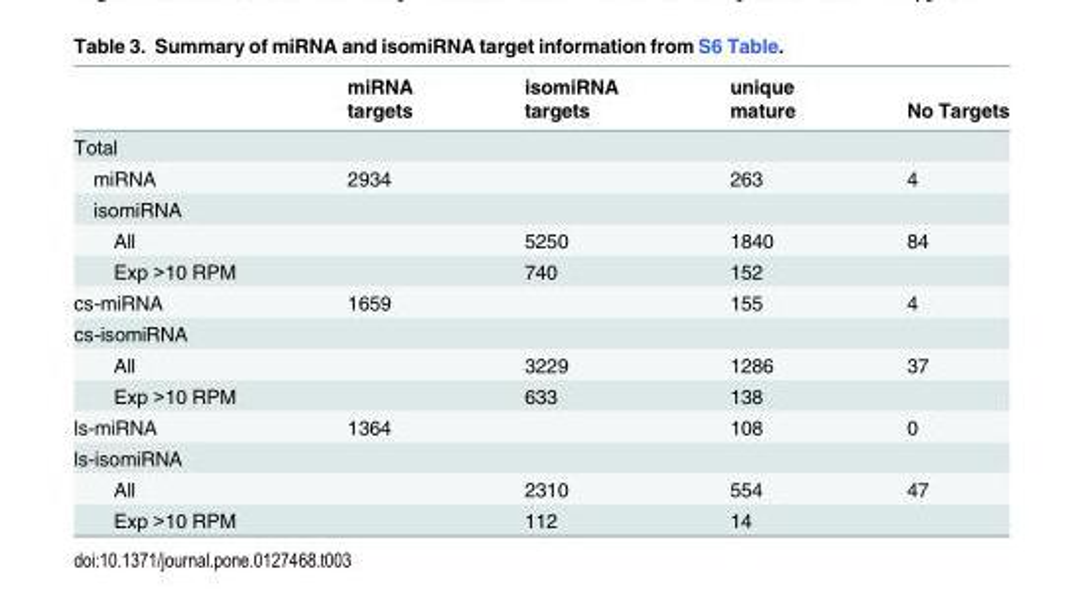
<table><thead><tr><td rowspan="2"></td><td rowspan="2">miRNA targets</td><td rowspan="2">isomiRNA targets</td><td rowspan="2">unique mature</td><td rowspan="2">No Targets</td></tr><tr></tr></thead><tbody><tr><td colspan="5">Total</td></tr><tr><td>miRNA</td><td>2934</td><td></td><td>263</td><td>4</td></tr><tr><td colspan="5">isomiRNA</td></tr><tr><td>All</td><td></td><td>5250</td><td>1840</td><td>84</td></tr><tr><td>Exp &gt;10 RPM</td><td></td><td>740</td><td>152</td><td></td></tr><tr><td>cs-miRNA</td><td>1659</td><td></td><td>155</td><td>4</td></tr><tr><td colspan="5">cs-isomiRNA</td></tr><tr><td>All</td><td></td><td>3229</td><td>1286</td><td>37</td></tr><tr><td>Exp &gt;10 RPM</td><td></td><td>633</td><td>138</td><td></td></tr><tr><td>ls-miRNA</td><td>1364</td><td></td><td>108</td><td>0</td></tr><tr><td colspan="5">ls-isomiRNA</td></tr><tr><td>All</td><td></td><td>2310</td><td>554</td><td>47</td></tr><tr><td>Exp &gt;10 RPM</td><td></td><td>112</td><td>14</td><td></td></tr></tbody></table>